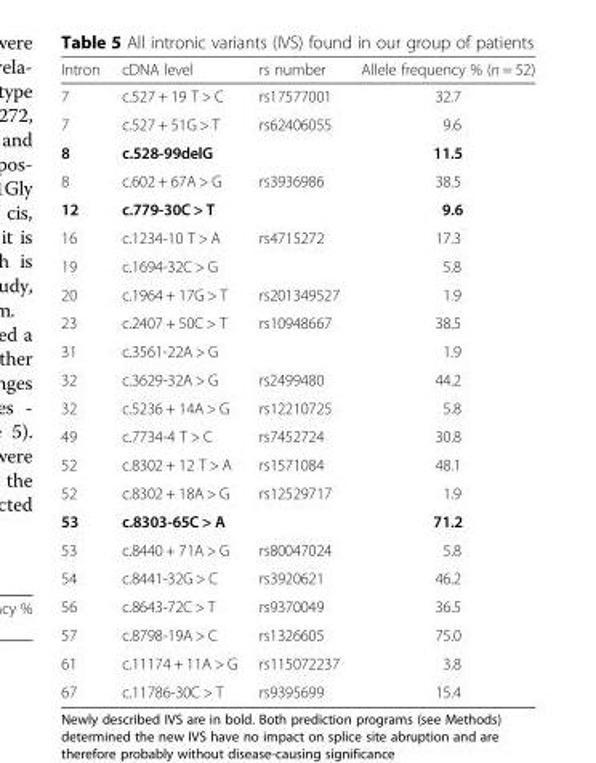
<table><thead><tr><td>Intron</td><td>cDNA level</td><td>rs number</td><td>Allele frequency % (n = 52)</td></tr></thead><tbody><tr><td>7</td><td>c.527 + 19 T &gt; C</td><td>rs17577001</td><td>32.7</td></tr><tr><td>7</td><td>c.527 + 51G &gt; T</td><td>rs62406055</td><td>9.6</td></tr><tr><td>8</td><td>c.528-99delG</td><td></td><td>11.5</td></tr><tr><td>8</td><td>c.602 + 67A &gt; G</td><td>rs3936986</td><td>38.5</td></tr><tr><td>12</td><td>c.779-30C &gt; T</td><td></td><td>9.6</td></tr><tr><td>16</td><td>c.1234-10 T &gt; A</td><td>rs4715272</td><td>17.3</td></tr><tr><td>19</td><td>c.1694-32C &gt; G</td><td></td><td>5.8</td></tr><tr><td>20</td><td>c.1964 + 17G &gt; T</td><td>rs201349527</td><td>1.9</td></tr><tr><td>23</td><td>c.2407 + 50C &gt; T</td><td>rs10948667</td><td>38.5</td></tr><tr><td>31</td><td>c.3561-22A &gt; G</td><td></td><td>1.9</td></tr><tr><td>32</td><td>c.3629-32A &gt; G</td><td>rs2499480</td><td>44.2</td></tr><tr><td>32</td><td>c.5236 + 14A &gt; G</td><td>rs12210725</td><td>5.8</td></tr><tr><td>49</td><td>c.7734-4 T &gt; C</td><td>rs7452724</td><td>30.8</td></tr><tr><td>52</td><td>c.8302 + 12 T &gt; A</td><td>rs1571084</td><td>48.1</td></tr><tr><td>52</td><td>c.8302 + 18A &gt; G</td><td>rs12529717</td><td>1.9</td></tr><tr><td>53</td><td>c.8303-65C &gt; A</td><td></td><td>71.2</td></tr><tr><td>53</td><td>c.8440 + 71A &gt; G</td><td>rs80047024</td><td>5.8</td></tr><tr><td>54</td><td>c.8441-32G &gt; C</td><td>rs3920621</td><td>46.2</td></tr><tr><td>56</td><td>c.8643-72C &gt; T</td><td>rs9370049</td><td>36.5</td></tr><tr><td>57</td><td>c.8798-19A &gt; C</td><td>rs1326605</td><td>75.0</td></tr><tr><td>61</td><td>c.11174 + 11A &gt; G</td><td>rs115072237</td><td>3.8</td></tr><tr><td>67</td><td>c.11786-30C &gt; T</td><td>rs9395699</td><td>15.4</td></tr></tbody></table>